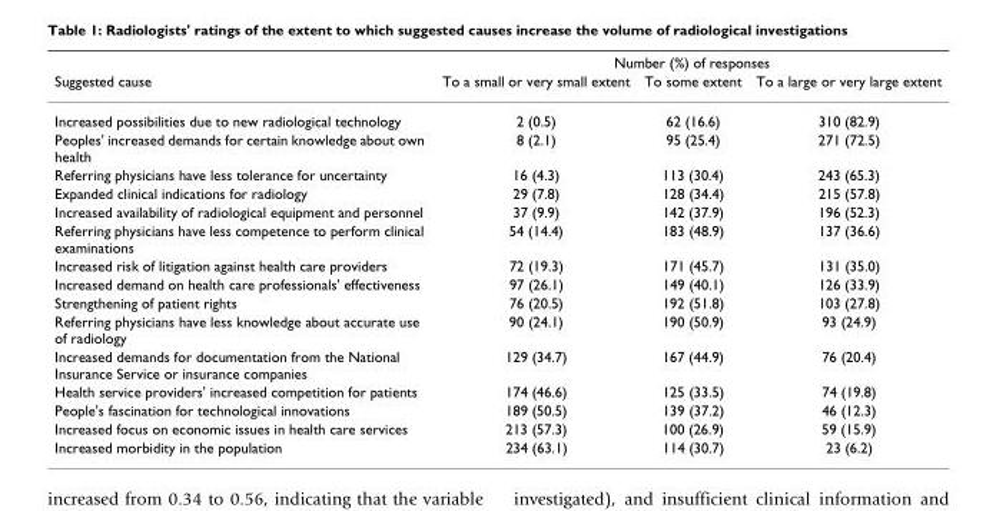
<table><thead><tr><td rowspan="2">Suggested cause</td><td colspan="3">Number (%) of responses</td></tr><tr><td>To a small or very small extent</td><td>To some extent</td><td>To a large or very large extent</td></tr></thead><tbody><tr><td>Increased possibilities due to new radiological technology</td><td>2 (0.5)</td><td>62 (16.6)</td><td>310 (82.9)</td></tr><tr><td>Peoples&#x27; increased demands for certain knowledge about own health</td><td>8 (2.1)</td><td>95 (25.4)</td><td>271 (72.5)</td></tr><tr><td>Referring physicians have less tolerance for uncertainty</td><td>16 (4.3)</td><td>113 (30.4)</td><td>243 (65.3)</td></tr><tr><td>Expanded clinical indications for radiology</td><td>29 (7.8)</td><td>128 (34.4)</td><td>215 (57.8)</td></tr><tr><td>Increased availability of radiological equipment and personnel</td><td>37 (9.9)</td><td>142 (37.9)</td><td>196 (52.3)</td></tr><tr><td>Referring physicians have less competence to perform clinical examinations</td><td>54 (14.4)</td><td>183 (48.9)</td><td>137 (36.6)</td></tr><tr><td>Increased risk of litigation against health care providers</td><td>72 (19.3)</td><td>171 (45.7)</td><td>131 (35.0)</td></tr><tr><td>Increased demand on health care professionals&#x27; effectiveness</td><td>97 (26.1)</td><td>149 (40.1)</td><td>126 (33.9)</td></tr><tr><td>Strengthening of patient rights</td><td>76 (20.5)</td><td>192 (51.8)</td><td>103 (27.8)</td></tr><tr><td>Referring physicians have less knowledge about accurate use of radiology</td><td>90 (24.1)</td><td>190 (50.9)</td><td>93 (24.9)</td></tr><tr><td>Increased demands for documentation from the National Insurance Service or insurance companies</td><td>129 (34.7)</td><td>167 (44.9)</td><td>76 (20.4)</td></tr><tr><td>Health service providers&#x27; increased competition for patients</td><td>174 (46.6)</td><td>125 (33.5)</td><td>74 (19.8)</td></tr><tr><td>People&#x27;s fascination for technological innovations</td><td>189 (50.5)</td><td>139 (37.2)</td><td>46 (12.3)</td></tr><tr><td>Increased focus on economic issues in health care services</td><td>213 (57.3)</td><td>100 (26.9)</td><td>59 (15.9)</td></tr><tr><td>Increased morbidity in the population</td><td>234 (63.1)</td><td>114 (30.7)</td><td>23 (6.2)</td></tr></tbody></table>